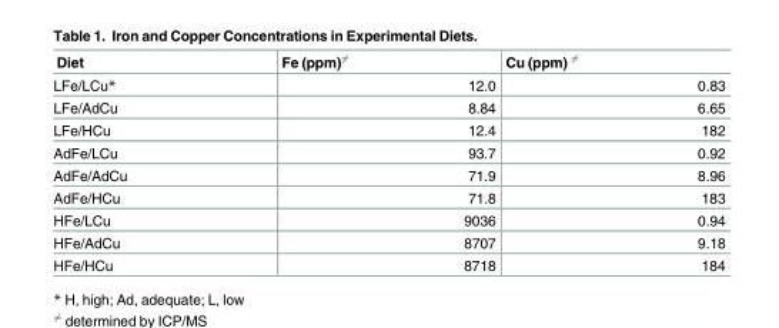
<table><thead><tr><td>Diet</td><td>Fe (ppm)6¼</td><td>Cu (ppm) 6¼</td></tr></thead><tbody><tr><td>LFe/LCu*</td><td>12.0</td><td>0.83</td></tr><tr><td>LFe/AdCu</td><td>8.84</td><td>6.65</td></tr><tr><td>LFe/HCu</td><td>12.4</td><td>182</td></tr><tr><td>AdFe/LCu</td><td>93.7</td><td>0.92</td></tr><tr><td>AdFe/AdCu</td><td>71.9</td><td>8.96</td></tr><tr><td>AdFe/HCu</td><td>71.8</td><td>183</td></tr><tr><td>HFe/LCu</td><td>9036</td><td>0.94</td></tr><tr><td>HFe/AdCu</td><td>8707</td><td>9.18</td></tr><tr><td>HFe/HCu</td><td>8718</td><td>184</td></tr></tbody></table>